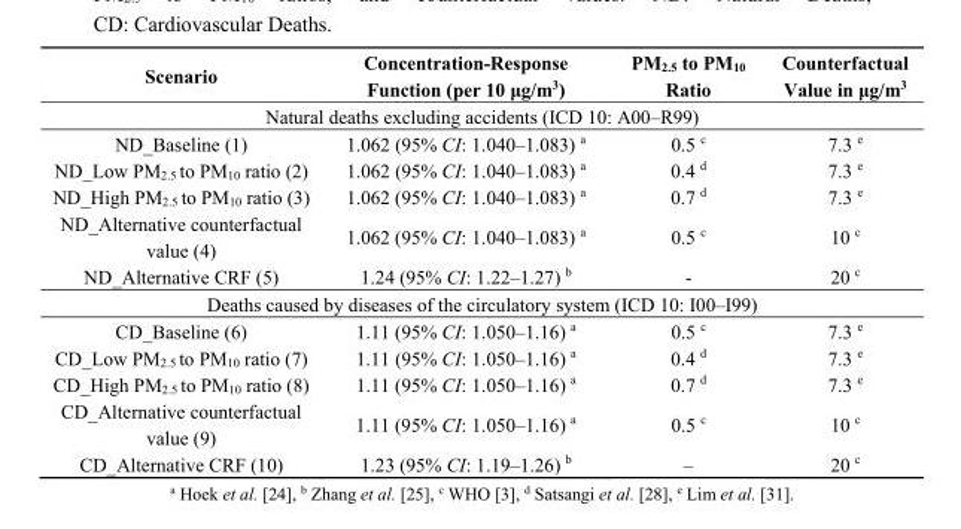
<table><thead><tr><td>Scenario</td><td>Concentration-Response Function (per 10 μg/m<sup>3</sup>)</td><td>PM<sub>2.5</sub> to PM<sub>10</sub> Ratio</td><td>Counterfactual Value in μg/m<sup>3</sup></td></tr></thead><tbody><tr><td colspan="4">Natural deaths excluding accidents (ICD 10: A00–R99)</td></tr><tr><td>ND_Baseline (1)</td><td>1.062 (95% CI: 1.040–1.083) <sup>a</sup></td><td>0.5 <sup>c</sup></td><td>7.3 <sup>e</sup></td></tr><tr><td>ND_Low PM<sub>2.5</sub> to PM<sub>10</sub> ratio (2)</td><td>1.062 (95% CI: 1.040–1.083) <sup>a</sup></td><td>0.4 <sup>d</sup></td><td>7.3 <sup>e</sup></td></tr><tr><td>ND_High PM<sub>2.5</sub> to PM<sub>10</sub> ratio (3)</td><td>1.062 (95% CI: 1.040–1.083) <sup>a</sup></td><td>0.7 <sup>d</sup></td><td>7.3 <sup>e</sup></td></tr><tr><td>ND_Alternative counterfactual value (4)</td><td>1.062 (95% CI: 1.040–1.083) <sup>a</sup></td><td>0.5 <sup>c</sup></td><td>10 <sup>c</sup></td></tr><tr><td>ND_Alternative CRF (5)</td><td>1.24 (95% CI: 1.22–1.27) <sup>b</sup></td><td>-</td><td>20 <sup>c</sup></td></tr><tr><td colspan="4">Deaths caused by diseases of the circulatory system (ICD 10: I00–I99)</td></tr><tr><td>CD_Baseline (6)</td><td>1.11 (95% CI: 1.050–1.16) <sup>a</sup></td><td>0.5 <sup>c</sup></td><td>7.3 <sup>e</sup></td></tr><tr><td>CD_Low PM<sub>2.5</sub> to PM<sub>10</sub> ratio (7)</td><td>1.11 (95% CI: 1.050–1.16) <sup>a</sup></td><td>0.4 <sup>d</sup></td><td>7.3 <sup>e</sup></td></tr><tr><td>CD_High PM<sub>2.5</sub> to PM<sub>10</sub> ratio (8)</td><td>1.11 (95% CI: 1.050–1.16) <sup>a</sup></td><td>0.7 <sup>d</sup></td><td>7.3 <sup>e</sup></td></tr><tr><td>CD_Alternative counterfactual value (9)</td><td>1.11 (95% CI: 1.050–1.16) <sup>a</sup></td><td>0.5 <sup>c</sup></td><td>10 <sup>c</sup></td></tr><tr><td>CD_Alternative CRF (10)</td><td>1.23 (95% CI: 1.19–1.26) <sup>b</sup></td><td>–</td><td>20 <sup>c</sup></td></tr></tbody></table>